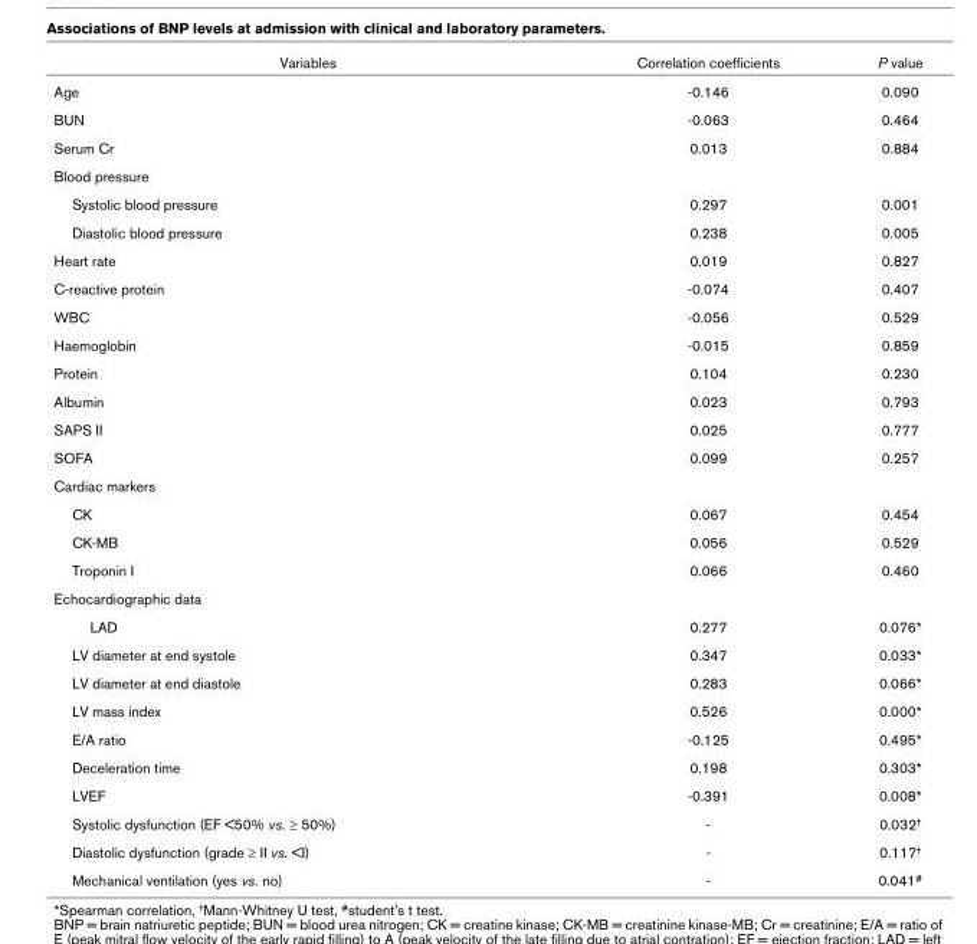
<table><thead><tr><td>Variables</td><td>Correlation coefficients</td><td>P value</td></tr></thead><tbody><tr><td>Age</td><td>-0.146</td><td>0.090</td></tr><tr><td>BUN</td><td>-0.063</td><td>0.464</td></tr><tr><td>Serum Cr</td><td>0.013</td><td>0.884</td></tr><tr><td colspan="3">Blood pressure</td></tr><tr><td>Systolic blood pressure</td><td>0.297</td><td>0.001</td></tr><tr><td>Diastolic blood pressure</td><td>0.238</td><td>0.005</td></tr><tr><td>Heart rate</td><td>0.019</td><td>0.827</td></tr><tr><td>C-reactive protein</td><td>-0.074</td><td>0.407</td></tr><tr><td>WBC</td><td>-0.056</td><td>0.529</td></tr><tr><td>Haemoglobin</td><td>-0.015</td><td>0.859</td></tr><tr><td>Protein</td><td>0.104</td><td>0.230</td></tr><tr><td>Albumin</td><td>0.023</td><td>0.793</td></tr><tr><td>SAPS II</td><td>0.025</td><td>0.777</td></tr><tr><td>SOFA</td><td>0.099</td><td>0.257</td></tr><tr><td colspan="3">Cardiac markers</td></tr><tr><td>CK</td><td>0.067</td><td>0.454</td></tr><tr><td>CK-MB</td><td>0.056</td><td>0.529</td></tr><tr><td>Troponin I</td><td>0.066</td><td>0.460</td></tr><tr><td colspan="3">Echocardiographic data</td></tr><tr><td>LAD</td><td>0.277</td><td>0.076*</td></tr><tr><td>LV diameter at end systole</td><td>0.347</td><td>0.033*</td></tr><tr><td>LV diameter at end diastole</td><td>0.283</td><td>0.066*</td></tr><tr><td>LV mass index</td><td>0.526</td><td>0.000*</td></tr><tr><td>E/A ratio</td><td>-0.125</td><td>0.495*</td></tr><tr><td>Deceleration time</td><td>0.198</td><td>0.303*</td></tr><tr><td>LVEF</td><td>-0.391</td><td>0.008*</td></tr><tr><td>Systolic dysfunction (EF &lt;50% vs. ≥ 50%)</td><td>-</td><td>0.032<sup>†</sup></td></tr><tr><td>Diastolic dysfunction (grade ≥ II vs. &lt;I)</td><td>-</td><td>0.117<sup>†</sup></td></tr><tr><td>Mechanical ventilation (yes vs. no)</td><td>-</td><td>0.041<sup>#</sup></td></tr></tbody></table>